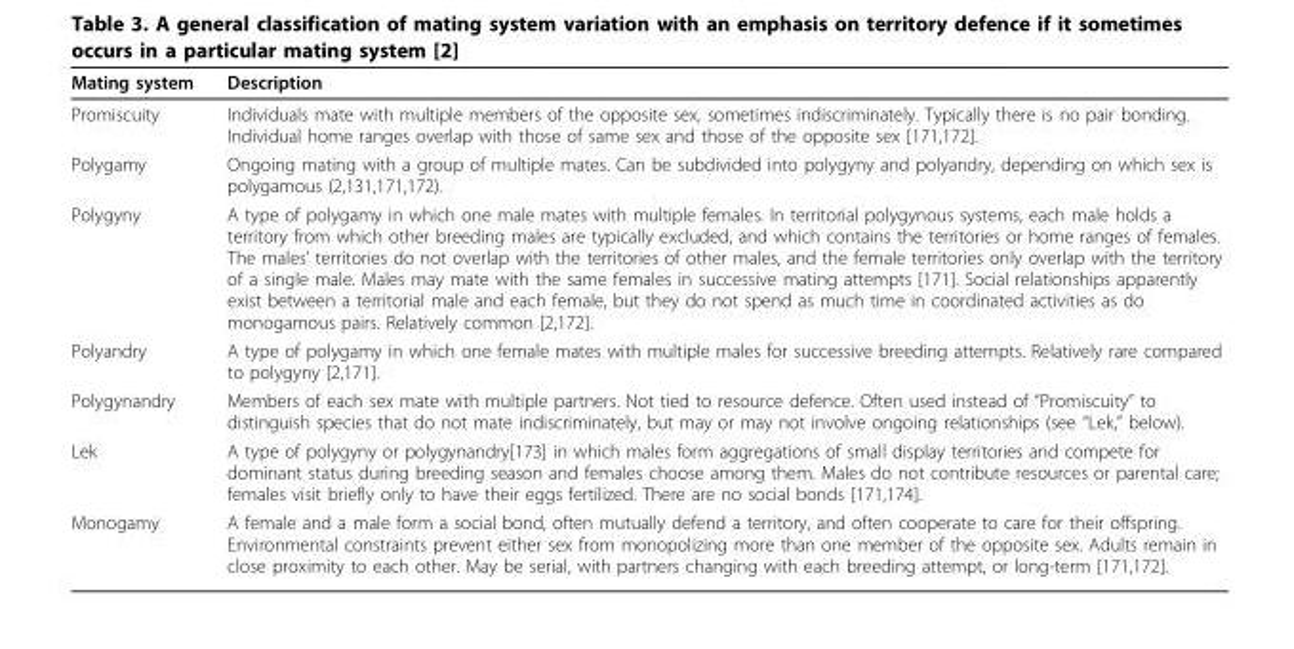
<table><tbody><tr><td>Mating system</td><td>Description</td></tr><tr><td>Promiscuity</td><td>Individuals mate with multiple members of the opposite sex, sometimes indiscriminately. Typically there is no pair bonding. Individual home ranges overlap with those of same sex and those of the opposite sex [171,172].</td></tr><tr><td>Polygamy</td><td>Ongoing mating with a group of multiple mates. Can be subdivided into polygyny and polyandry, depending on which sex is polygamous (2,131,171,172).</td></tr><tr><td>Polygyny</td><td>A type of polygamy in which one male mates with multiple females. In territorial polygynous systems, each male holds a territory from which other breeding males are typically excluded, and which contains the territories or home ranges of females. The males’ territories do not overlap with the territories of other males, and the female territories only overlap with the territory of a single male. Males may mate with the same females in successive mating attempts [171]. Social relationships apparently exist between a territorial male and each female, but they do not spend as much time in coordinated activities as do monogamous pairs. Relatively common [2,172].</td></tr><tr><td>Polyandry</td><td>A type of polygamy in which one female mates with multiple males for successive breeding attempts. Relatively rare compared to polygyny [2,171].</td></tr><tr><td>Polygynandry</td><td>Members of each sex mate with multiple partners. Not tied to resource defence. Often used instead of “Promiscuity” to distinguish species that do not mate indiscriminately, but may or may not involve ongoing relationships (see “Lek,” below).</td></tr><tr><td>Lek</td><td>A type of polygyny or polygynandry[173] in which males form aggregations of small display territories and compete for dominant status during breeding season and females choose among them. Males do not contribute resources or parental care; females visit briefly only to have their eggs fertilized. There are no social bonds [171,174].</td></tr><tr><td>Monogamy</td><td>A female and a male form a social bond, often mutually defend a territory, and often cooperate to care for their offspring. Environmental constraints prevent either sex from monopolizing more than one member of the opposite sex. Adults remain in close proximity to each other. May be serial, with partners changing with each breeding attempt, or long-term [171,172].</td></tr></tbody></table>